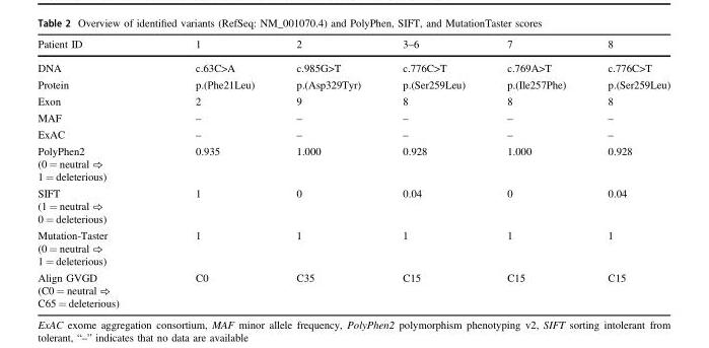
<table><thead><tr><td>Patient ID</td><td>1</td><td>2</td><td>3–6</td><td>7</td><td>8</td></tr></thead><tbody><tr><td>DNA</td><td>c.63C&gt;A</td><td>c.985G&gt;T</td><td>c.776C&gt;T</td><td>c.769A&gt;T</td><td>c.776C&gt;T</td></tr><tr><td>Protein</td><td>p.(Phe21Leu)</td><td>p.(Asp329Tyr)</td><td>p.(Ser259Leu)</td><td>p.(Ile257Phe)</td><td>p.(Ser259Leu)</td></tr><tr><td>Exon</td><td>2</td><td>9</td><td>8</td><td>8</td><td>8</td></tr><tr><td>MAF</td><td>–</td><td>–</td><td>–</td><td>–</td><td>–</td></tr><tr><td>ExAC</td><td>–</td><td>–</td><td>–</td><td>–</td><td>–</td></tr><tr><td>PolyPhen2 (0 = neutral ⇨ 1 = deleterious)</td><td>0.935</td><td>1.000</td><td>0.928</td><td>1.000</td><td>0.928</td></tr><tr><td>SIFT (1 = neutral ⇨ 0 = deleterious)</td><td>1</td><td>0</td><td>0.04</td><td>0</td><td>0.04</td></tr><tr><td>Mutation-Taster (0 = neutral ⇨ 1 = deleterious)</td><td>1</td><td>1</td><td>1</td><td>1</td><td>1</td></tr><tr><td>Align GVGD (C0 = neutral ⇨ C65 = deleterious)</td><td>C0</td><td>C35</td><td>C15</td><td>C15</td><td>C15</td></tr></tbody></table>